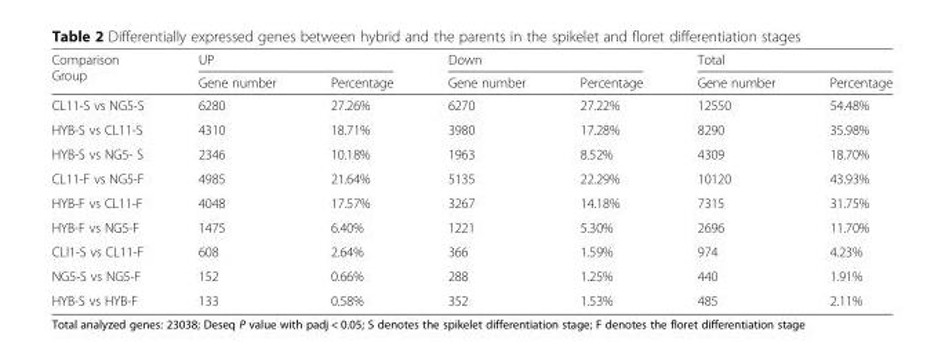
<table><thead><tr><td rowspan="2">Comparison Group</td><td colspan="2">UP</td><td colspan="2">Down</td><td colspan="2">Total</td></tr><tr><td>Gene number</td><td>Percentage</td><td>Gene number</td><td>Percentage</td><td>Gene number</td><td>Percentage</td></tr></thead><tbody><tr><td>CL11-S vs NG5-S</td><td>6280</td><td>27.26%</td><td>6270</td><td>27.22%</td><td>12550</td><td>54.48%</td></tr><tr><td>HYB-S vs CL11-S</td><td>4310</td><td>18.71%</td><td>3980</td><td>17.28%</td><td>8290</td><td>35.98%</td></tr><tr><td>HYB-S vs NG5- S</td><td>2346</td><td>10.18%</td><td>1963</td><td>8.52%</td><td>4309</td><td>18.70%</td></tr><tr><td>CL11-F vs NG5-F</td><td>4985</td><td>21.64%</td><td>5135</td><td>22.29%</td><td>10120</td><td>43.93%</td></tr><tr><td>HYB-F vs CL11-F</td><td>4048</td><td>17.57%</td><td>3267</td><td>14.18%</td><td>7315</td><td>31.75%</td></tr><tr><td>HYB-F vs NG5-F</td><td>1475</td><td>6.40%</td><td>1221</td><td>5.30%</td><td>2696</td><td>11.70%</td></tr><tr><td>CLl1-S vs CL11-F</td><td>608</td><td>2.64%</td><td>366</td><td>1.59%</td><td>974</td><td>4.23%</td></tr><tr><td>NG5-S vs NG5-F</td><td>152</td><td>0.66%</td><td>288</td><td>1.25%</td><td>440</td><td>1.91%</td></tr><tr><td>HYB-S vs HYB-F</td><td>133</td><td>0.58%</td><td>352</td><td>1.53%</td><td>485</td><td>2.11%</td></tr></tbody></table>